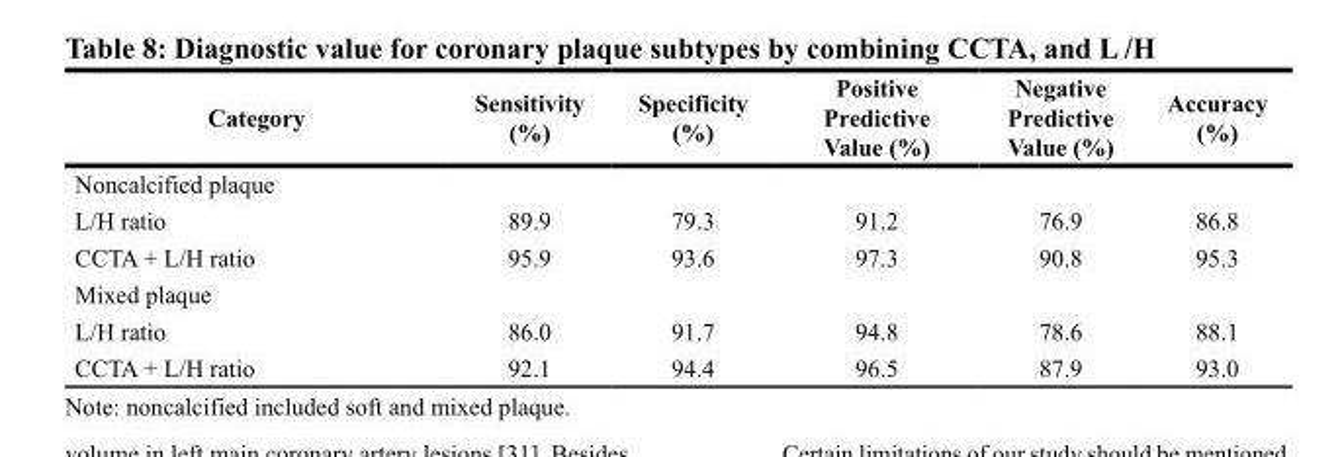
<table><thead><tr><td>Category</td><td>Sensitivity (%)</td><td>Specificity (%)</td><td>Positive Predictive Value (%)</td><td>Negative Predictive Value (%)</td><td>Accuracy (%)</td></tr></thead><tbody><tr><td colspan="6">Noncalcified plaque</td></tr><tr><td>L/H ratio</td><td>89.9</td><td>79.3</td><td>91.2</td><td>76.9</td><td>86.8</td></tr><tr><td>CCTA + L/H ratio</td><td>95.9</td><td>93.6</td><td>97.3</td><td>90.8</td><td>95.3</td></tr><tr><td colspan="6">Mixed plaque</td></tr><tr><td>L/H ratio</td><td>86.0</td><td>91.7</td><td>94.8</td><td>78.6</td><td>88.1</td></tr><tr><td>CCTA + L/H ratio</td><td>92.1</td><td>94.4</td><td>96.5</td><td>87.9</td><td>93.0</td></tr></tbody></table>